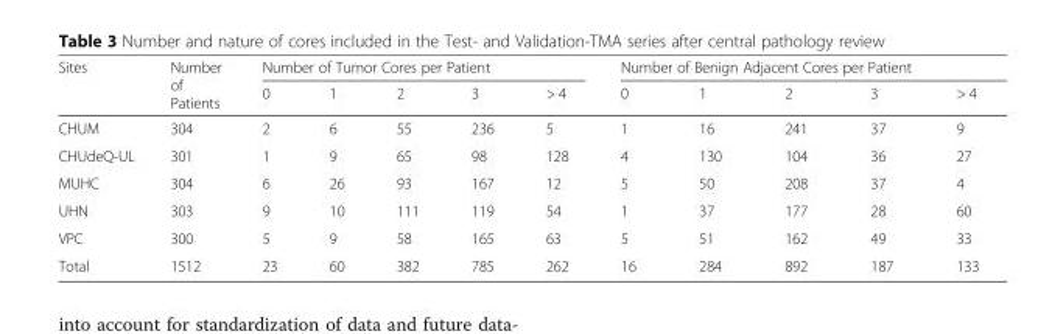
<table><thead><tr><td rowspan="2">Sites</td><td rowspan="2">Number of Patients</td><td colspan="5">Number of Tumor Cores per Patient</td><td colspan="5">Number of Benign Adjacent Cores per Patient</td></tr><tr><td>0</td><td>1</td><td>2</td><td>3</td><td>&gt; 4</td><td>0</td><td>1</td><td>2</td><td>3</td><td>&gt; 4</td></tr></thead><tbody><tr><td>CHUM</td><td>304</td><td>2</td><td>6</td><td>55</td><td>236</td><td>5</td><td>1</td><td>16</td><td>241</td><td>37</td><td>9</td></tr><tr><td>CHUdeQ-UL</td><td>301</td><td>1</td><td>9</td><td>65</td><td>98</td><td>128</td><td>4</td><td>130</td><td>104</td><td>36</td><td>27</td></tr><tr><td>MUHC</td><td>304</td><td>6</td><td>26</td><td>93</td><td>167</td><td>12</td><td>5</td><td>50</td><td>208</td><td>37</td><td>4</td></tr><tr><td>UHN</td><td>303</td><td>9</td><td>10</td><td>111</td><td>119</td><td>54</td><td>1</td><td>37</td><td>177</td><td>28</td><td>60</td></tr><tr><td>VPC</td><td>300</td><td>5</td><td>9</td><td>58</td><td>165</td><td>63</td><td>5</td><td>51</td><td>162</td><td>49</td><td>33</td></tr><tr><td>Total</td><td>1512</td><td>23</td><td>60</td><td>382</td><td>785</td><td>262</td><td>16</td><td>284</td><td>892</td><td>187</td><td>133</td></tr></tbody></table>